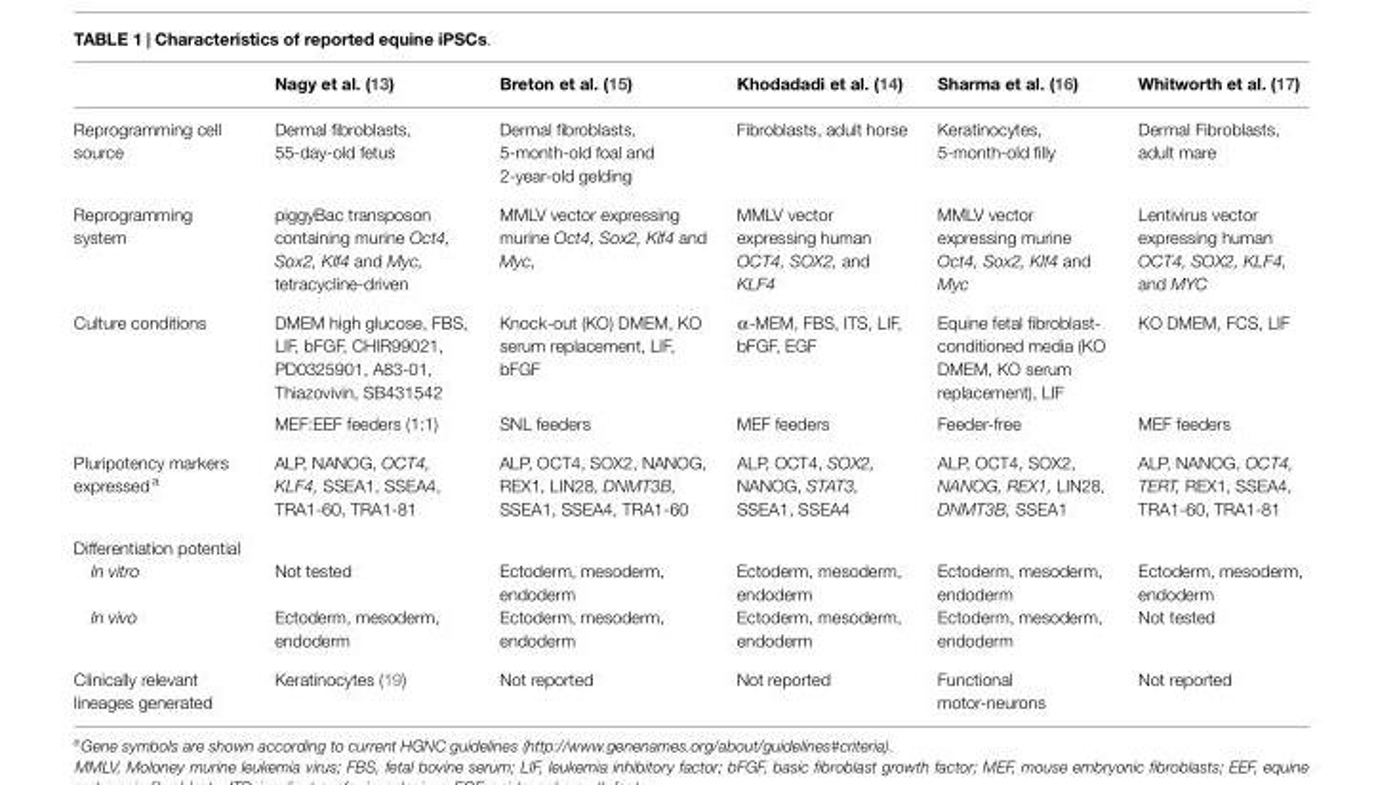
<table><thead><tr><td></td><td>Nagy et al. (13)</td><td>Breton et al. (15)</td><td>Khodadadi et al. (14)</td><td>Sharma et al. (16)</td><td>Whitworth et al. (17)</td></tr></thead><tbody><tr><td>Reprogramming cell source</td><td>Dermal fibroblasts, 55-day-old fetus</td><td>Dermal fibroblasts, 5-month-old foal and 2-year-old gelding</td><td>Fibroblasts, adult horse</td><td>Keratinocytes, 5-month-old filly</td><td>Dermal Fibroblasts, adult mare</td></tr><tr><td>Reprogramming system</td><td>piggyBac transposon containing murine Oct4, Sox2, Klf4 and Myc, tetracycline-driven</td><td>MMLV vector expressing murine Oct4, Sox2, Klf4 and Myc,</td><td>MMLV vector expressing human OCT4, SOX2, and KLF4</td><td>MMLV vector expressing murine Oct4, Sox2, Klf4 and Myc</td><td>Lentivirus vector expressing human OCT4, SOX2, KLF4, and MYC</td></tr><tr><td rowspan="2">Culture conditions</td><td>DMEM high glucose, FBS, LIF, bFGF, CHIR99021, PD0325901, A83-01, Thiazovivin, SB431542</td><td>Knock-out (KO) DMEM, KO serum replacement, LIF, bFGF</td><td>α-MEM, FBS, ITS, LIF, bFGF, EGF</td><td>Equine fetal fibroblast- conditioned media (KO DMEM, KO serum replacement), LIF</td><td>KO DMEM, FCS, LIF</td></tr><tr><td>MEF:EEF feeders (1:1)</td><td>SNL feeders</td><td>MEF feeders</td><td>Feeder-free</td><td>MEF feeders</td></tr><tr><td>Pluripotency markers expressed <sup>a</sup></td><td>ALP, NANOG, OCT4, KLF4, SSEA1, SSEA4, TRA1-60, TRA1-81</td><td>ALP, OCT4, SOX2, NANOG, REX1, LIN28, DNMT3B, SSEA1, SSEA4, TRA1-60</td><td>ALP, OCT4, SOX2, NANOG, STAT3, SSEA1, SSEA4</td><td>ALP, OCT4, SOX2, NANOG, REX1, LIN28, DNMT3B, SSEA1</td><td>ALP, NANOG, OCT4, TERT, REX1, SSEA4, TRA1-60, TRA1-81</td></tr><tr><td colspan="6">Differentiation potential</td></tr><tr><td>In vitro</td><td>Not tested</td><td>Ectoderm, mesoderm, endoderm</td><td>Ectoderm, mesoderm, endoderm</td><td>Ectoderm, mesoderm, endoderm</td><td>Ectoderm, mesoderm, endoderm</td></tr><tr><td>In vivo</td><td>Ectoderm, mesoderm, endoderm</td><td>Ectoderm, mesoderm, endoderm</td><td>Ectoderm, mesoderm, endoderm</td><td>Ectoderm, mesoderm, endoderm</td><td>Not tested</td></tr><tr><td>Clinically relevant lineages generated</td><td>Keratinocytes (19)</td><td>Not reported</td><td>Not reported</td><td>Functional motor-neurons</td><td>Not reported</td></tr></tbody></table>